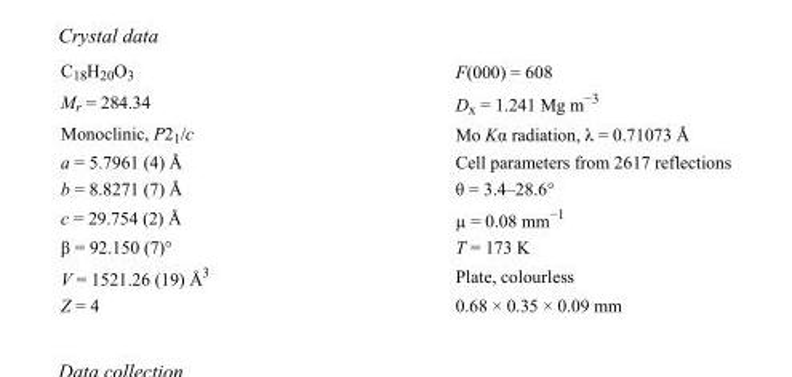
<table><tbody><tr><td>C<sub>18</sub>H<sub>20</sub>O<sub>3</sub></td><td>F(000) = 608</td></tr><tr><td>M<sub>r</sub> = 284.34</td><td>D<sub>x</sub> = 1.241 Mg m<sup>−3</sup></td></tr><tr><td>Monoclinic, P2<sub>1</sub>/c</td><td>Mo Kα radiation, λ = 0.71073 Å</td></tr><tr><td>a = 5.7961 (4) Å</td><td>Cell parameters from 2617 reflections</td></tr><tr><td>b = 8.8271 (7) Å</td><td>θ = 3.4–28.6°</td></tr><tr><td>c = 29.754 (2) Å</td><td>µ = 0.08 mm<sup>−1</sup></td></tr><tr><td>β = 92.150 (7)°</td><td>T = 173 K</td></tr><tr><td>V = 1521.26 (19) Å<sup>3</sup></td><td>Plate, colourless</td></tr><tr><td>Z = 4</td><td>0.68 × 0.35 × 0.09 mm</td></tr></tbody></table>